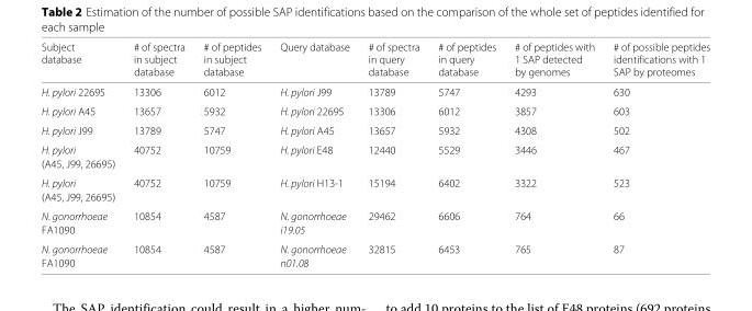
<table><thead><tr><td rowspan="3">Subject database</td><td rowspan="3"># of spectra in subject database</td><td rowspan="3"># of peptides in subject database</td><td rowspan="3">Query database</td><td rowspan="3"># of spectra in query database</td><td rowspan="3"># of peptides in query database</td><td rowspan="3"># of peptides with 1 SAP detected by genomes</td><td rowspan="3"># of possible peptides identifications with 1 SAP by proteomes</td></tr><tr></tr><tr></tr></thead><tbody><tr><td>H. pylori 22695</td><td>13306</td><td>6012</td><td>H. pylori J99</td><td>13789</td><td>5747</td><td>4293</td><td>630</td></tr><tr><td>H. pylori A45</td><td>13657</td><td>5932</td><td>H. pylori 22695</td><td>13306</td><td>6012</td><td>3857</td><td>603</td></tr><tr><td>H. pylori J99</td><td>13789</td><td>5747</td><td>H. pylori A45</td><td>13657</td><td>5932</td><td>4308</td><td>502</td></tr><tr><td>H. pylori</td><td>40752</td><td>10759</td><td>H. pylori E48</td><td>12440</td><td>5529</td><td>3446</td><td>467</td></tr><tr><td colspan="8">(A45, J99, 26695)</td></tr><tr><td>H. pylori</td><td>40752</td><td>10759</td><td>H. pylori H13-1</td><td>15194</td><td>6402</td><td>3322</td><td>523</td></tr><tr><td colspan="8">(A45, J99, 26695)</td></tr><tr><td>N. gonorrhoeae</td><td>10854</td><td>4587</td><td>N. gonorrhoeae</td><td>29462</td><td>6606</td><td>764</td><td>66</td></tr><tr><td>FA1090</td><td></td><td></td><td>i19.05</td><td></td><td></td><td></td><td></td></tr><tr><td>N. gonorrhoeae</td><td>10854</td><td>4587</td><td>N. gonorrhoeae</td><td>32815</td><td>6453</td><td>765</td><td>87</td></tr><tr><td>FA1090</td><td></td><td></td><td>n01.08</td><td></td><td></td><td></td><td></td></tr></tbody></table>